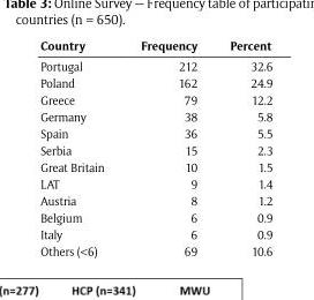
<table><thead><tr><td>Country</td><td>Frequency</td><td>Percent</td></tr></thead><tbody><tr><td>Portugal</td><td>212</td><td>32.6</td></tr><tr><td>Poland</td><td>162</td><td>24.9</td></tr><tr><td>Greece</td><td>79</td><td>12.2</td></tr><tr><td>Germany</td><td>38</td><td>5.8</td></tr><tr><td>Spain</td><td>36</td><td>5.5</td></tr><tr><td>Serbia</td><td>15</td><td>2.3</td></tr><tr><td>Great Britain</td><td>10</td><td>1.5</td></tr><tr><td>LAT</td><td>9</td><td>1.4</td></tr><tr><td>Austria</td><td>8</td><td>1.2</td></tr><tr><td>Belgium</td><td>6</td><td>0.9</td></tr><tr><td>Italy</td><td>6</td><td>0.9</td></tr><tr><td>Others (&lt;6)</td><td>69</td><td>10.6</td></tr></tbody></table>